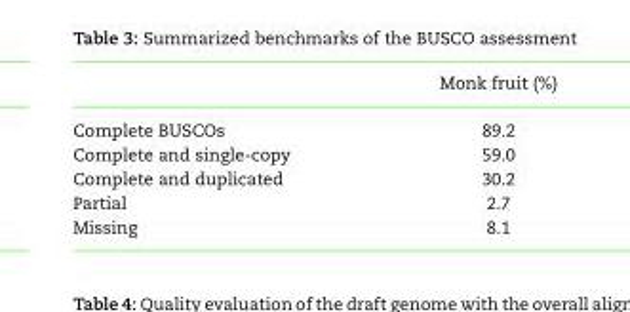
<table><thead><tr><td></td><td>Monk fruit (%)</td></tr></thead><tbody><tr><td>Complete BUSCOs</td><td>89.2</td></tr><tr><td>Complete and single-copy</td><td>59.0</td></tr><tr><td>Complete and duplicated</td><td>30.2</td></tr><tr><td>Partial</td><td>2.7</td></tr><tr><td>Missing</td><td>8.1</td></tr></tbody></table>